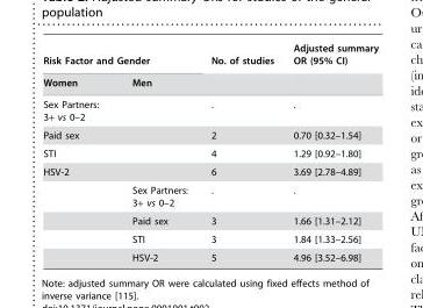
<table><thead><tr><td colspan="2">Risk Factor and Gender</td><td rowspan="2">No. of studies</td><td rowspan="2">Adjusted summary OR (95% CI)</td></tr><tr><td>Women</td><td>Men</td></tr></thead><tbody><tr><td>Sex Partners: 3+ vs 0–2</td><td></td><td>.</td><td>.</td></tr><tr><td>Paid sex</td><td></td><td>2</td><td>0.70 [0.32–1.54]</td></tr><tr><td>STI</td><td></td><td>4</td><td>1.29 [0.92–1.80]</td></tr><tr><td rowspan="5">HSV-2</td><td></td><td>6</td><td>3.69 [2.78–4.89]</td></tr><tr><td>Sex Partners: 3+ vs 0–2</td><td>.</td><td>.</td></tr><tr><td>Paid sex</td><td>3</td><td>1.66 [1.31–2.12]</td></tr><tr><td>STI</td><td>3</td><td>1.84 [1.33–2.56]</td></tr><tr><td>HSV-2</td><td>5</td><td>4.96 [3.52–6.98]</td></tr></tbody></table>